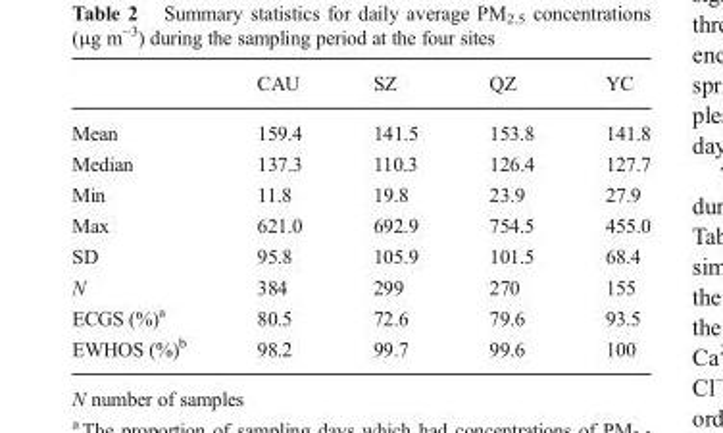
<table><thead><tr><td></td><td>CAU</td><td>SZ</td><td>QZ</td><td>YC</td></tr></thead><tbody><tr><td>Mean</td><td>159.4</td><td>141.5</td><td>153.8</td><td>141.8</td></tr><tr><td>Median</td><td>137.3</td><td>110.3</td><td>126.4</td><td>127.7</td></tr><tr><td>Min</td><td>11.8</td><td>19.8</td><td>23.9</td><td>27.9</td></tr><tr><td>Max</td><td>621.0</td><td>692.9</td><td>754.5</td><td>455.0</td></tr><tr><td>SD</td><td>95.8</td><td>105.9</td><td>101.5</td><td>68.4</td></tr><tr><td>N</td><td>384</td><td>299</td><td>270</td><td>155</td></tr><tr><td>ECGS (%)<sup>a</sup></td><td>80.5</td><td>72.6</td><td>79.6</td><td>93.5</td></tr><tr><td>EWHOS (%)<sup>b</sup></td><td>98.2</td><td>99.7</td><td>99.6</td><td>100</td></tr></tbody></table>